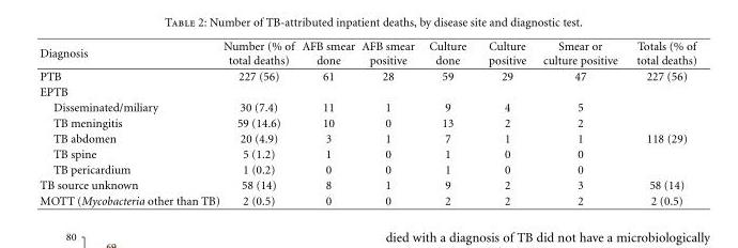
<table><thead><tr><td>Diagnosis</td><td>Number (% of total deaths)</td><td>AFB smear done</td><td>AFB smear positive</td><td>Culture done</td><td>Culture positive</td><td>Smear or culture positive</td><td>Totals (% of total deaths)</td></tr></thead><tbody><tr><td>PTB</td><td>227 (56)</td><td>61</td><td>28</td><td>59</td><td>29</td><td>47</td><td>227 (56)</td></tr><tr><td colspan="8">EPTB</td></tr><tr><td>Disseminated/miliary</td><td>30 (7.4)</td><td>11</td><td>1</td><td>9</td><td>4</td><td>5</td><td></td></tr><tr><td>TB meningitis</td><td>59 (14.6)</td><td>10</td><td>0</td><td>13</td><td>2</td><td>2</td><td></td></tr><tr><td>TB abdomen</td><td>20 (4.9)</td><td>3</td><td>1</td><td>7</td><td>1</td><td>1</td><td>118 (29)</td></tr><tr><td>TB spine</td><td>5 (1.2)</td><td>1</td><td>0</td><td>1</td><td>0</td><td>0</td><td></td></tr><tr><td>TB pericardium</td><td>1 (0.2)</td><td>0</td><td>0</td><td>1</td><td>0</td><td>0</td><td></td></tr><tr><td>TB source unknown</td><td>58 (14)</td><td>8</td><td>1</td><td>9</td><td>2</td><td>3</td><td>58 (14)</td></tr><tr><td>MOTT (Mycobacteria other than TB)</td><td>2 (0.5)</td><td>0</td><td>0</td><td>2</td><td>2</td><td>2</td><td>2 (0.5)</td></tr></tbody></table>